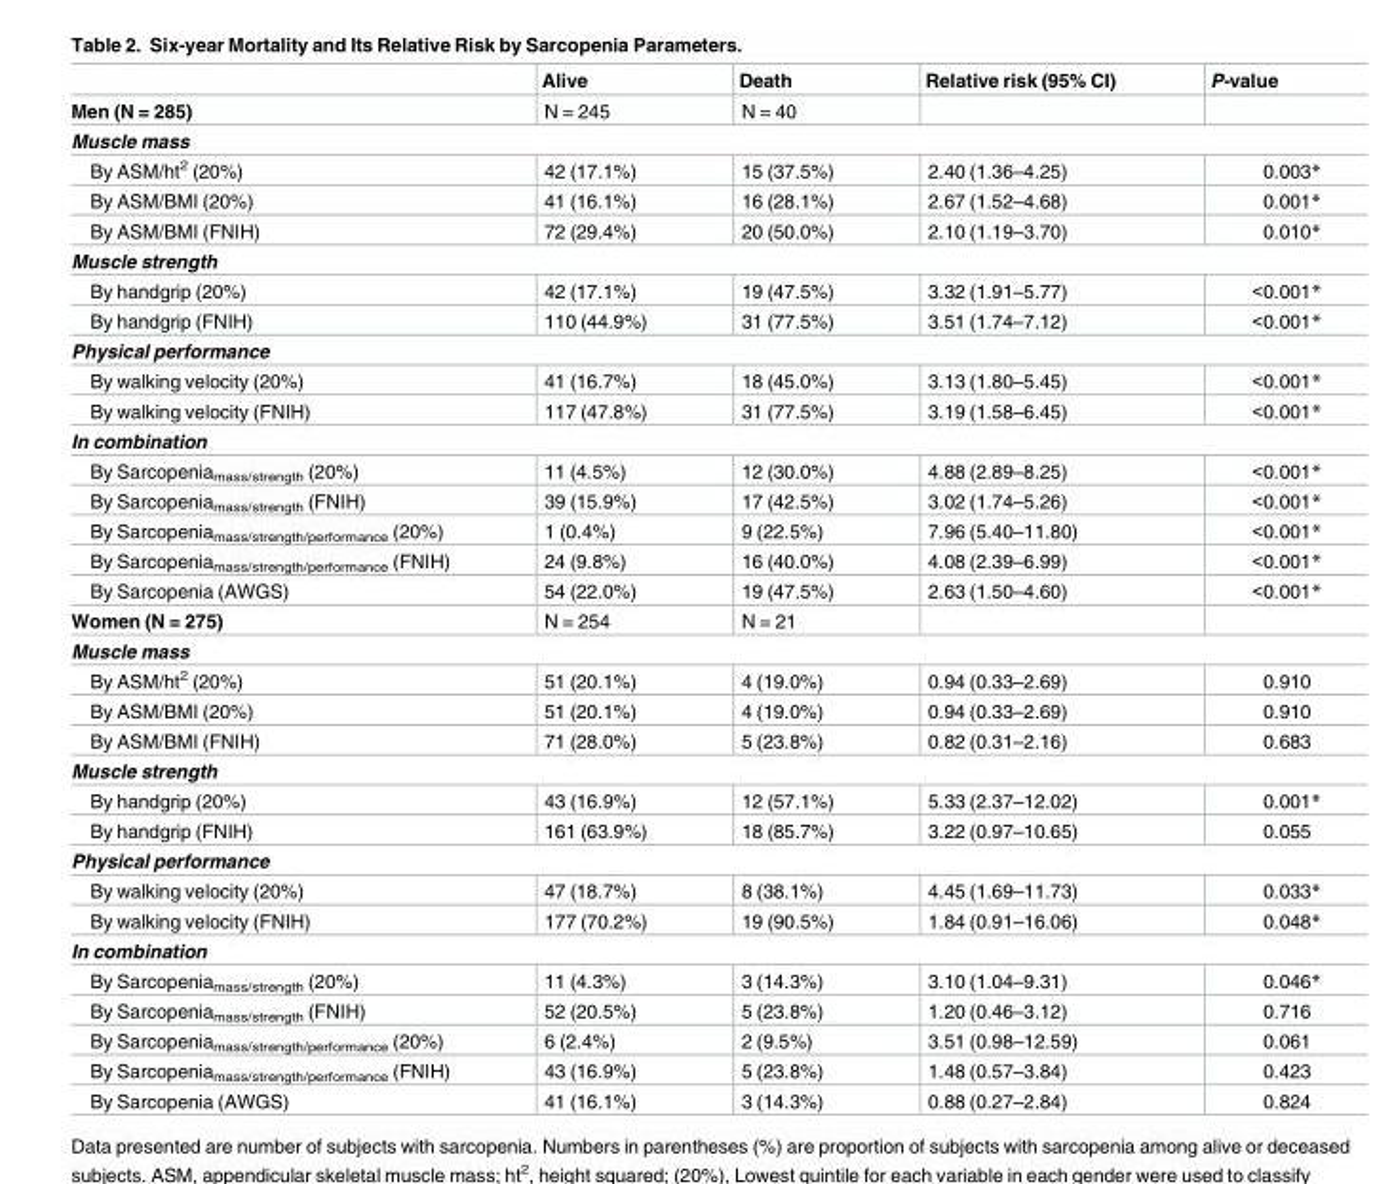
<table><thead><tr><td></td><td>Alive</td><td>Death</td><td>Relative risk (95% CI)</td><td>P-value</td></tr></thead><tbody><tr><td>Men (N = 285)</td><td>N = 245</td><td>N = 40</td><td></td><td></td></tr><tr><td colspan="5">Muscle mass</td></tr><tr><td>By ASM/ht<sup>2</sup> (20%)</td><td>42 (17.1%)</td><td>15 (37.5%)</td><td>2.40 (1.36–4.25)</td><td>0.003*</td></tr><tr><td>By ASM/BMI (20%)</td><td>41 (16.1%)</td><td>16 (28.1%)</td><td>2.67 (1.52–4.68)</td><td>0.001*</td></tr><tr><td>By ASM/BMI (FNIH)</td><td>72 (29.4%)</td><td>20 (50.0%)</td><td>2.10 (1.19–3.70)</td><td>0.010*</td></tr><tr><td colspan="5">Muscle strength</td></tr><tr><td>By handgrip (20%)</td><td>42 (17.1%)</td><td>19 (47.5%)</td><td>3.32 (1.91–5.77)</td><td>&lt;0.001*</td></tr><tr><td>By handgrip (FNIH)</td><td>110 (44.9%)</td><td>31 (77.5%)</td><td>3.51 (1.74–7.12)</td><td>&lt;0.001*</td></tr><tr><td colspan="5">Physical performance</td></tr><tr><td>By walking velocity (20%)</td><td>41 (16.7%)</td><td>18 (45.0%)</td><td>3.13 (1.80–5.45)</td><td>&lt;0.001*</td></tr><tr><td>By walking velocity (FNIH)</td><td>117 (47.8%)</td><td>31 (77.5%)</td><td>3.19 (1.58–6.45)</td><td>&lt;0.001*</td></tr><tr><td colspan="5">In combination</td></tr><tr><td>By Sarcopenia<sub>mass/strength</sub> (20%)</td><td>11 (4.5%)</td><td>12 (30.0%)</td><td>4.88 (2.89–8.25)</td><td>&lt;0.001*</td></tr><tr><td>By Sarcopenia<sub>mass/strength</sub> (FNIH)</td><td>39 (15.9%)</td><td>17 (42.5%)</td><td>3.02 (1.74–5.26)</td><td>&lt;0.001*</td></tr><tr><td>By Sarcopenia<sub>mass/strength/performance</sub> (20%)</td><td>1 (0.4%)</td><td>9 (22.5%)</td><td>7.96 (5.40–11.80)</td><td>&lt;0.001*</td></tr><tr><td>By Sarcopenia<sub>mass/strength/performance</sub> (FNIH)</td><td>24 (9.8%)</td><td>16 (40.0%)</td><td>4.08 (2.39–6.99)</td><td>&lt;0.001*</td></tr><tr><td>By Sarcopenia (AWGS)</td><td>54 (22.0%)</td><td>19 (47.5%)</td><td>2.63 (1.50–4.60)</td><td>&lt;0.001*</td></tr><tr><td>Women (N = 275)</td><td>N = 254</td><td>N = 21</td><td></td><td></td></tr><tr><td colspan="5">Muscle mass</td></tr><tr><td>By ASM/ht<sup>2</sup> (20%)</td><td>51 (20.1%)</td><td>4 (19.0%)</td><td>0.94 (0.33–2.69)</td><td>0.910</td></tr><tr><td>By ASM/BMI (20%)</td><td>51 (20.1%)</td><td>4 (19.0%)</td><td>0.94 (0.33–2.69)</td><td>0.910</td></tr><tr><td>By ASM/BMI (FNIH)</td><td>71 (28.0%)</td><td>5 (23.8%)</td><td>0.82 (0.31–2.16)</td><td>0.683</td></tr><tr><td colspan="5">Muscle strength</td></tr><tr><td>By handgrip (20%)</td><td>43 (16.9%)</td><td>12 (57.1%)</td><td>5.33 (2.37–12.02)</td><td>0.001*</td></tr><tr><td>By handgrip (FNIH)</td><td>161 (63.9%)</td><td>18 (85.7%)</td><td>3.22 (0.97–10.65)</td><td>0.055</td></tr><tr><td colspan="5">Physical performance</td></tr><tr><td>By walking velocity (20%)</td><td>47 (18.7%)</td><td>8 (38.1%)</td><td>4.45 (1.69–11.73)</td><td>0.033*</td></tr><tr><td>By walking velocity (FNIH)</td><td>177 (70.2%)</td><td>19 (90.5%)</td><td>1.84 (0.91–16.06)</td><td>0.048*</td></tr><tr><td colspan="5">In combination</td></tr><tr><td>By Sarcopenia<sub>mass/strength</sub> (20%)</td><td>11 (4.3%)</td><td>3 (14.3%)</td><td>3.10 (1.04–9.31)</td><td>0.046*</td></tr><tr><td>By Sarcopenia<sub>mass/strength</sub> (FNIH)</td><td>52 (20.5%)</td><td>5 (23.8%)</td><td>1.20 (0.46–3.12)</td><td>0.716</td></tr><tr><td>By Sarcopenia<sub>mass/strength/performance</sub> (20%)</td><td>6 (2.4%)</td><td>2 (9.5%)</td><td>3.51 (0.98–12.59)</td><td>0.061</td></tr><tr><td>By Sarcopenia<sub>mass/strength/performance</sub> (FNIH)</td><td>43 (16.9%)</td><td>5 (23.8%)</td><td>1.48 (0.57–3.84)</td><td>0.423</td></tr><tr><td>By Sarcopenia (AWGS)</td><td>41 (16.1%)</td><td>3 (14.3%)</td><td>0.88 (0.27–2.84)</td><td>0.824</td></tr></tbody></table>